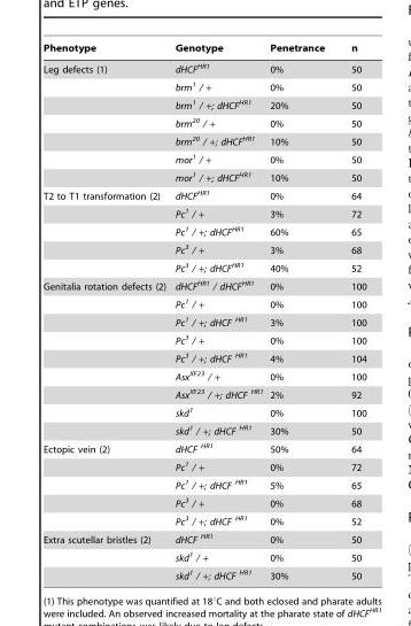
<table><thead><tr><td>Phenotype</td><td>Genotype</td><td>Penetrance</td><td>n</td></tr></thead><tbody><tr><td rowspan="7">Leg defects (1)</td><td>dHCF<sup>HR1</sup></td><td>0%</td><td>50</td></tr><tr><td>brm<sup>1</sup> / +</td><td>0%</td><td>50</td></tr><tr><td>brm<sup>1</sup> / +; dHCF<sup>HR1</sup></td><td>20%</td><td>50</td></tr><tr><td>brm<sup>20</sup> / +</td><td>0%</td><td>50</td></tr><tr><td>brm<sup>20</sup> / +; dHCF<sup>HR1</sup></td><td>10%</td><td>50</td></tr><tr><td>mor<sup>1</sup> / +</td><td>0%</td><td>50</td></tr><tr><td>mor<sup>1</sup> / +; dHCF<sup>HR1</sup></td><td>10%</td><td>50</td></tr><tr><td rowspan="5">T2 to T1 transformation (2)</td><td>dHCF<sup>HR1</sup></td><td>0%</td><td>64</td></tr><tr><td>Pc<sup>1</sup> / +</td><td>3%</td><td>72</td></tr><tr><td>Pc<sup>1</sup> / +; dHCF<sup>HR1</sup></td><td>60%</td><td>65</td></tr><tr><td>Pc<sup>3</sup> / +</td><td>3%</td><td>68</td></tr><tr><td>Pc<sup>3</sup> / +; dHCF<sup>HR1</sup></td><td>40%</td><td>52</td></tr><tr><td rowspan="9">Genitalia rotation defects (2)</td><td>dHCF<sup>HR1</sup> / dHCF<sup>HR1</sup></td><td>0%</td><td>100</td></tr><tr><td>Pc<sup>1</sup> / +</td><td>0%</td><td>100</td></tr><tr><td>Pc<sup>1</sup> / +; dHCF <sup>HR1</sup></td><td>3%</td><td>100</td></tr><tr><td>Pc<sup>3</sup> / +</td><td>0%</td><td>100</td></tr><tr><td>Pc<sup>3</sup> / +; dHCF <sup>HR1</sup></td><td>4%</td><td>104</td></tr><tr><td>Asx<sup>XF23</sup> / +</td><td>0%</td><td>100</td></tr><tr><td>Asx<sup>XF23</sup> / +; dHCF <sup>HR1</sup></td><td>2%</td><td>92</td></tr><tr><td>skd<sup>1</sup></td><td>0%</td><td>100</td></tr><tr><td>skd<sup>1</sup> / +; dHCF <sup>HR1</sup></td><td>30%</td><td>50</td></tr><tr><td rowspan="5">Ectopic vein (2)</td><td>dHCF <sup>HR1</sup></td><td>50%</td><td>64</td></tr><tr><td>Pc<sup>1</sup> / +</td><td>0%</td><td>72</td></tr><tr><td>Pc<sup>1</sup> / +; dHCF <sup>HR1</sup></td><td>5%</td><td>65</td></tr><tr><td>Pc<sup>3</sup> / +</td><td>0%</td><td>68</td></tr><tr><td>Pc<sup>3</sup> / +; dHCF <sup>HR1</sup></td><td>0%</td><td>52</td></tr><tr><td rowspan="3">Extra scutellar bristles (2)</td><td>dHCF <sup>HR1</sup></td><td>0%</td><td>50</td></tr><tr><td>skd<sup>1</sup> / +</td><td>0%</td><td>50</td></tr><tr><td>skd<sup>1</sup> / +; dHCF <sup>HR1</sup></td><td>30%</td><td>50</td></tr></tbody></table>